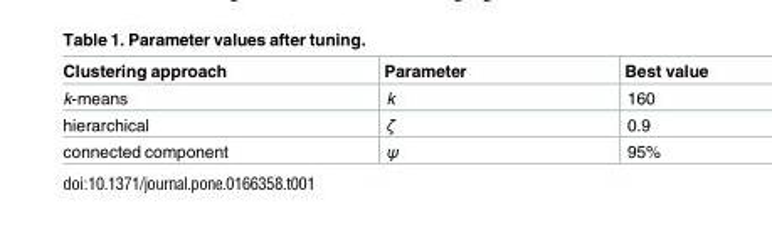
<table><thead><tr><td>Clustering approach</td><td>Parameter</td><td>Best value</td></tr></thead><tbody><tr><td>k-means</td><td>k</td><td>160</td></tr><tr><td>hierarchical</td><td>ζ</td><td>0.9</td></tr><tr><td>connected component</td><td>ψ</td><td>95%</td></tr></tbody></table>